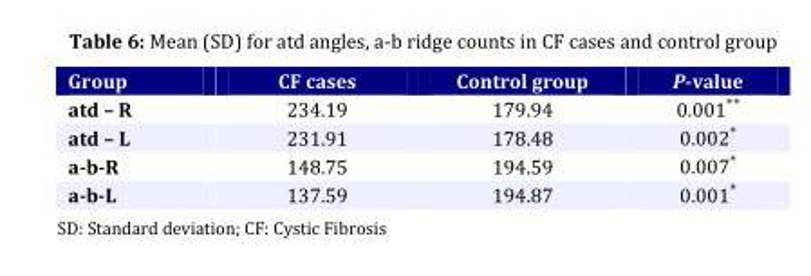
<table><thead><tr><td>Group</td><td>CF cases</td><td>Control group</td><td>P-value</td></tr></thead><tbody><tr><td>atd – R</td><td>234.19</td><td>179.94</td><td>0.001**</td></tr><tr><td>atd – L</td><td>231.91</td><td>178.48</td><td>0.002*</td></tr><tr><td>a-b-R</td><td>148.75</td><td>194.59</td><td>0.007*</td></tr><tr><td>a-b-L</td><td>137.59</td><td>194.87</td><td>0.001*</td></tr></tbody></table>